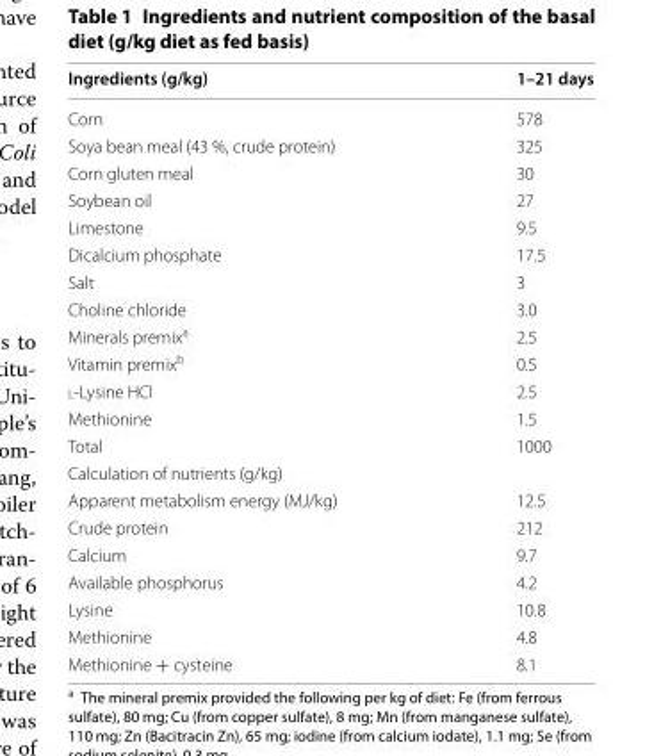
<table><thead><tr><td>Ingredients (g/kg)</td><td>1–21 days</td></tr></thead><tbody><tr><td>Corn</td><td>578</td></tr><tr><td>Soya bean meal (43 %, crude protein)</td><td>325</td></tr><tr><td>Corn gluten meal</td><td>30</td></tr><tr><td>Soybean oil</td><td>27</td></tr><tr><td>Limestone</td><td>9.5</td></tr><tr><td>Dicalcium phosphate</td><td>17.5</td></tr><tr><td>Salt</td><td>3</td></tr><tr><td>Choline chloride</td><td>3.0</td></tr><tr><td>Minerals premix<sup>a</sup></td><td>2.5</td></tr><tr><td>Vitamin premix<sup>b</sup></td><td>0.5</td></tr><tr><td>l-Lysine HCl</td><td>2.5</td></tr><tr><td>Methionine</td><td>1.5</td></tr><tr><td>Total</td><td>1000</td></tr><tr><td colspan="2">Calculation of nutrients (g/kg)</td></tr><tr><td>Apparent metabolism energy (MJ/kg)</td><td>12.5</td></tr><tr><td>Crude protein</td><td>212</td></tr><tr><td>Calcium</td><td>9.7</td></tr><tr><td>Available phosphorus</td><td>4.2</td></tr><tr><td>Lysine</td><td>10.8</td></tr><tr><td>Methionine</td><td>4.8</td></tr><tr><td>Methionine + cysteine</td><td>8.1</td></tr></tbody></table>